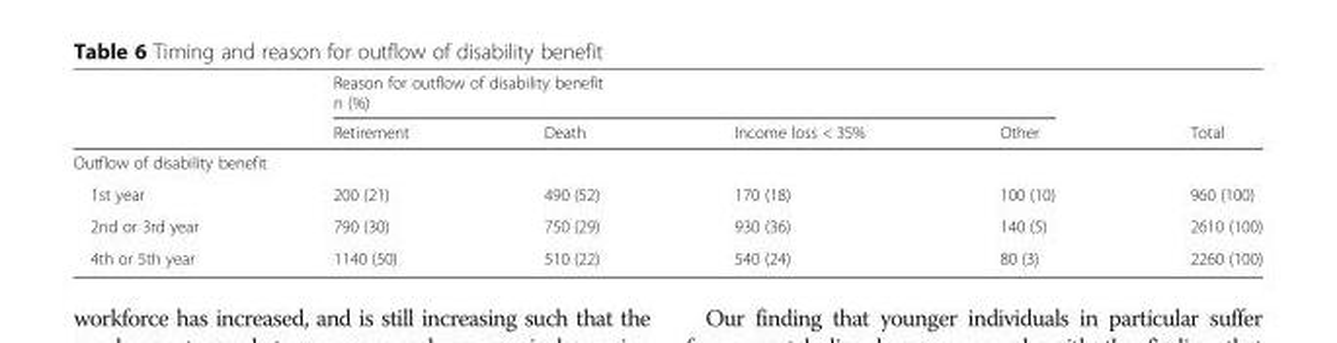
<table><thead><tr><td rowspan="2"></td><td colspan="4">Reason for outflow of disability benefit n (%)</td><td rowspan="2">Total</td></tr><tr><td>Retirement</td><td>Death</td><td>Income loss &lt; 35%</td><td>Other</td></tr></thead><tbody><tr><td colspan="6">Outflow of disability benefit</td></tr><tr><td>1st year</td><td>200 (21)</td><td>490 (52)</td><td>170 (18)</td><td>100 (10)</td><td>960 (100)</td></tr><tr><td>2nd or 3rd year</td><td>790 (30)</td><td>750 (29)</td><td>930 (36)</td><td>140 (5)</td><td>2610 (100)</td></tr><tr><td>4th or 5th year</td><td>1140 (50)</td><td>510 (22)</td><td>540 (24)</td><td>80 (3)</td><td>2260 (100)</td></tr></tbody></table>